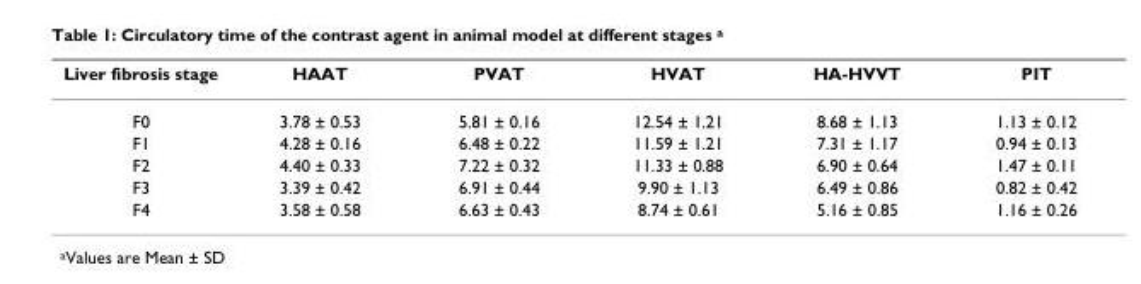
<table><thead><tr><td>Liver fibrosis stage</td><td>HAAT</td><td>PVAT</td><td>HVAT</td><td>HA-HVVT</td><td>PIT</td></tr></thead><tbody><tr><td>F0</td><td>3.78 ± 0.53</td><td>5.81 ± 0.16</td><td>12.54 ± 1.21</td><td>8.68 ± 1.13</td><td>1.13 ± 0.12</td></tr><tr><td>F1</td><td>4.28 ± 0.16</td><td>6.48 ± 0.22</td><td>11.59 ± 1.21</td><td>7.31 ± 1.17</td><td>0.94 ± 0.13</td></tr><tr><td>F2</td><td>4.40 ± 0.33</td><td>7.22 ± 0.32</td><td>11.33 ± 0.88</td><td>6.90 ± 0.64</td><td>1.47 ± 0.11</td></tr><tr><td>F3</td><td>3.39 ± 0.42</td><td>6.91 ± 0.44</td><td>9.90 ± 1.13</td><td>6.49 ± 0.86</td><td>0.82 ± 0.42</td></tr><tr><td>F4</td><td>3.58 ± 0.58</td><td>6.63 ± 0.43</td><td>8.74 ± 0.61</td><td>5.16 ± 0.85</td><td>1.16 ± 0.26</td></tr></tbody></table>